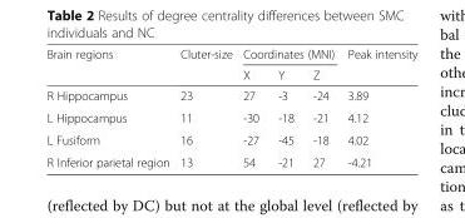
<table><thead><tr><td rowspan="2">Brain regions</td><td rowspan="2">Cluter-size</td><td colspan="3">Coordinates (MNI)</td><td rowspan="2">Peak intensity</td></tr><tr><td>X</td><td>Y</td><td>Z</td></tr></thead><tbody><tr><td>R Hippocampus</td><td>23</td><td>27</td><td>-3</td><td>-24</td><td>3.89</td></tr><tr><td>L Hippocampus</td><td>11</td><td>-30</td><td>-18</td><td>-21</td><td>4.12</td></tr><tr><td>L Fusiform</td><td>16</td><td>-27</td><td>-45</td><td>-18</td><td>4.02</td></tr><tr><td>R Inferior parietal region</td><td>13</td><td>54</td><td>-21</td><td>27</td><td>-4.21</td></tr></tbody></table>